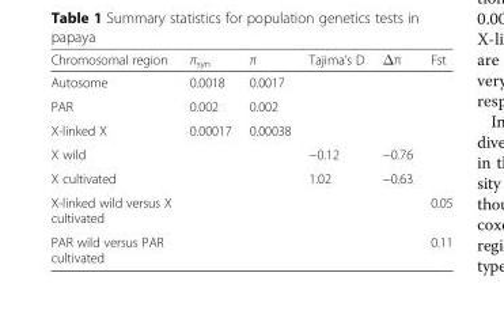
<table><thead><tr><td>Chromosomal region</td><td>π<sub>syn</sub></td><td>π</td><td>Tajima’s D</td><td>Δπ</td><td>Fst</td></tr></thead><tbody><tr><td>Autosome</td><td>0.0018</td><td>0.0017</td><td></td><td></td><td></td></tr><tr><td>PAR</td><td>0.002</td><td>0.002</td><td></td><td></td><td></td></tr><tr><td>X-linked X</td><td>0.00017</td><td>0.00038</td><td></td><td></td><td></td></tr><tr><td>X wild</td><td></td><td></td><td>−0.12</td><td>−0.76</td><td></td></tr><tr><td>X cultivated</td><td></td><td></td><td>1.02</td><td>−0.63</td><td></td></tr><tr><td>X-linked wild versus X cultivated</td><td></td><td></td><td></td><td></td><td>0.05</td></tr><tr><td>PAR wild versus PAR cultivated</td><td></td><td></td><td></td><td></td><td>0.11</td></tr></tbody></table>